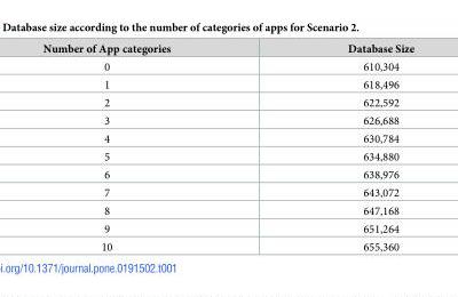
<table><thead><tr><td>Number of App categories</td><td>Database Size</td></tr></thead><tbody><tr><td>0</td><td>610,304</td></tr><tr><td>1</td><td>618,496</td></tr><tr><td>2</td><td>622,592</td></tr><tr><td>3</td><td>626,688</td></tr><tr><td>4</td><td>630,784</td></tr><tr><td>5</td><td>634,880</td></tr><tr><td>6</td><td>638,976</td></tr><tr><td>7</td><td>643,072</td></tr><tr><td>8</td><td>647,168</td></tr><tr><td>9</td><td>651,264</td></tr><tr><td>10</td><td>655,360</td></tr></tbody></table>